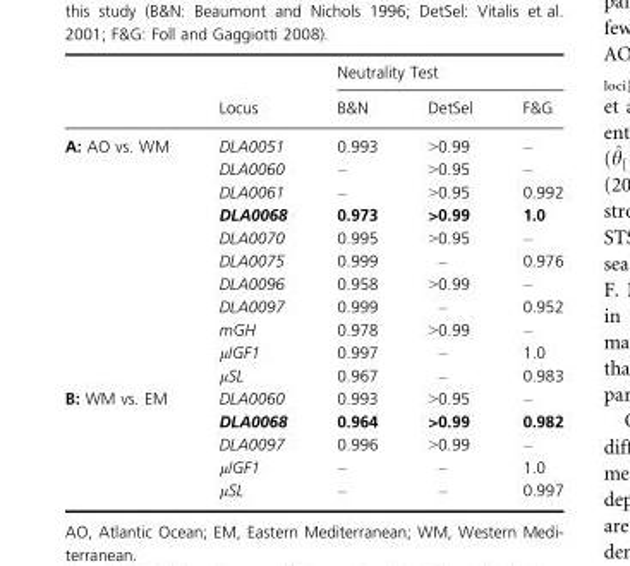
<table><thead><tr><td rowspan="2"></td><td rowspan="2">Locus</td><td colspan="3">Neutrality Test</td></tr><tr><td>B&amp;N</td><td>DetSel</td><td>F&amp;G</td></tr></thead><tbody><tr><td rowspan="11">A: AO vs. WM</td><td>DLA0051</td><td>0.993</td><td>&gt;0.99</td><td>–</td></tr><tr><td>DLA0060</td><td>–</td><td>&gt;0.95</td><td>–</td></tr><tr><td>DLA0061</td><td>–</td><td>&gt;0.95</td><td>0.992</td></tr><tr><td>DLA0068</td><td>0.973</td><td>&gt;0.99</td><td>1.0</td></tr><tr><td>DLA0070</td><td>0.995</td><td>&gt;0.95</td><td>–</td></tr><tr><td>DLA0075</td><td>0.999</td><td>–</td><td>0.976</td></tr><tr><td>DLA0096</td><td>0.958</td><td>&gt;0.99</td><td>–</td></tr><tr><td>DLA0097</td><td>0.999</td><td>–</td><td>0.952</td></tr><tr><td>mGH</td><td>0.978</td><td>&gt;0.99</td><td>–</td></tr><tr><td>μIGF1</td><td>0.997</td><td>–</td><td>1.0</td></tr><tr><td>μSL</td><td>0.967</td><td>–</td><td>0.983</td></tr><tr><td rowspan="5">B: WM vs. EM</td><td>DLA0060</td><td>0.993</td><td>&gt;0.95</td><td>–</td></tr><tr><td>DLA0068</td><td>0.964</td><td>&gt;0.99</td><td>0.982</td></tr><tr><td>DLA0097</td><td>0.996</td><td>&gt;0.99</td><td>–</td></tr><tr><td>μIGF1</td><td>–</td><td>–</td><td>1.0</td></tr><tr><td>μSL</td><td>–</td><td>–</td><td>0.997</td></tr></tbody></table>